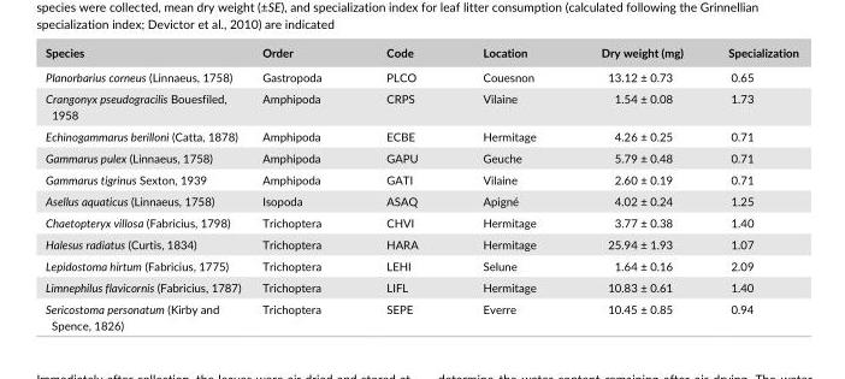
<table><thead><tr><td>Species</td><td>Order</td><td>Code</td><td>Location</td><td>Dry weight (mg)</td><td>Specialization</td></tr></thead><tbody><tr><td>Planorbarius corneus (Linnaeus, 1758)</td><td>Gastropoda</td><td>PLCO</td><td>Couesnon</td><td>13.12 ± 0.73</td><td>0.65</td></tr><tr><td>Crangonyx pseudogracilis Bouesfiled, 1958</td><td>Amphipoda</td><td>CRPS</td><td>Vilaine</td><td>1.54 ± 0.08</td><td>1.73</td></tr><tr><td>Echinogammarus berilloni (Catta, 1878)</td><td>Amphipoda</td><td>ECBE</td><td>Hermitage</td><td>4.26 ± 0.25</td><td>0.71</td></tr><tr><td>Gammarus pulex (Linnaeus, 1758)</td><td>Amphipoda</td><td>GAPU</td><td>Geuche</td><td>5.79 ± 0.48</td><td>0.71</td></tr><tr><td>Gammarus tigrinus Sexton, 1939</td><td>Amphipoda</td><td>GATI</td><td>Vilaine</td><td>2.60 ± 0.19</td><td>0.71</td></tr><tr><td>Asellus aquaticus (Linnaeus, 1758)</td><td>Isopoda</td><td>ASAQ</td><td>Apigné</td><td>4.02 ± 0.24</td><td>1.25</td></tr><tr><td>Chaetopteryx villosa (Fabricius, 1798)</td><td>Trichoptera</td><td>CHVI</td><td>Hermitage</td><td>3.77 ± 0.38</td><td>1.40</td></tr><tr><td>Halesus radiatus (Curtis, 1834)</td><td>Trichoptera</td><td>HARA</td><td>Hermitage</td><td>25.94 ± 1.93</td><td>1.07</td></tr><tr><td>Lepidostoma hirtum (Fabricius, 1775)</td><td>Trichoptera</td><td>LEHI</td><td>Selune</td><td>1.64 ± 0.16</td><td>2.09</td></tr><tr><td>Limnephilus flavicornis (Fabricius, 1787)</td><td>Trichoptera</td><td>LIFL</td><td>Hermitage</td><td>10.83 ± 0.61</td><td>1.40</td></tr><tr><td>Sericostoma personatum (Kirby and Spence, 1826)</td><td>Trichoptera</td><td>SEPE</td><td>Everre</td><td>10.45 ± 0.85</td><td>0.94</td></tr></tbody></table>